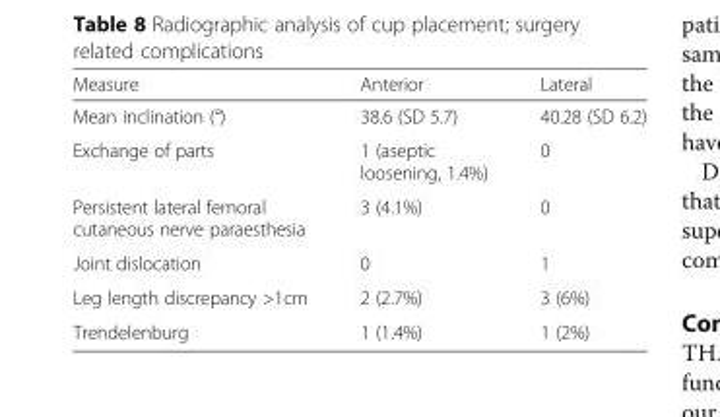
<table><thead><tr><td>Measure</td><td>Anterior</td><td>Lateral</td></tr></thead><tbody><tr><td>Mean inclination (°)</td><td>38.6 (SD 5.7)</td><td>40.28 (SD 6.2)</td></tr><tr><td>Exchange of parts</td><td>1 (aseptic loosening, 1.4%)</td><td>0</td></tr><tr><td>Persistent lateral femoral cutaneous nerve paraesthesia</td><td>3 (4.1%)</td><td>0</td></tr><tr><td>Joint dislocation</td><td>0</td><td>1</td></tr><tr><td>Leg length discrepancy &gt;1cm</td><td>2 (2.7%)</td><td>3 (6%)</td></tr><tr><td>Trendelenburg</td><td>1 (1.4%)</td><td>1 (2%)</td></tr></tbody></table>